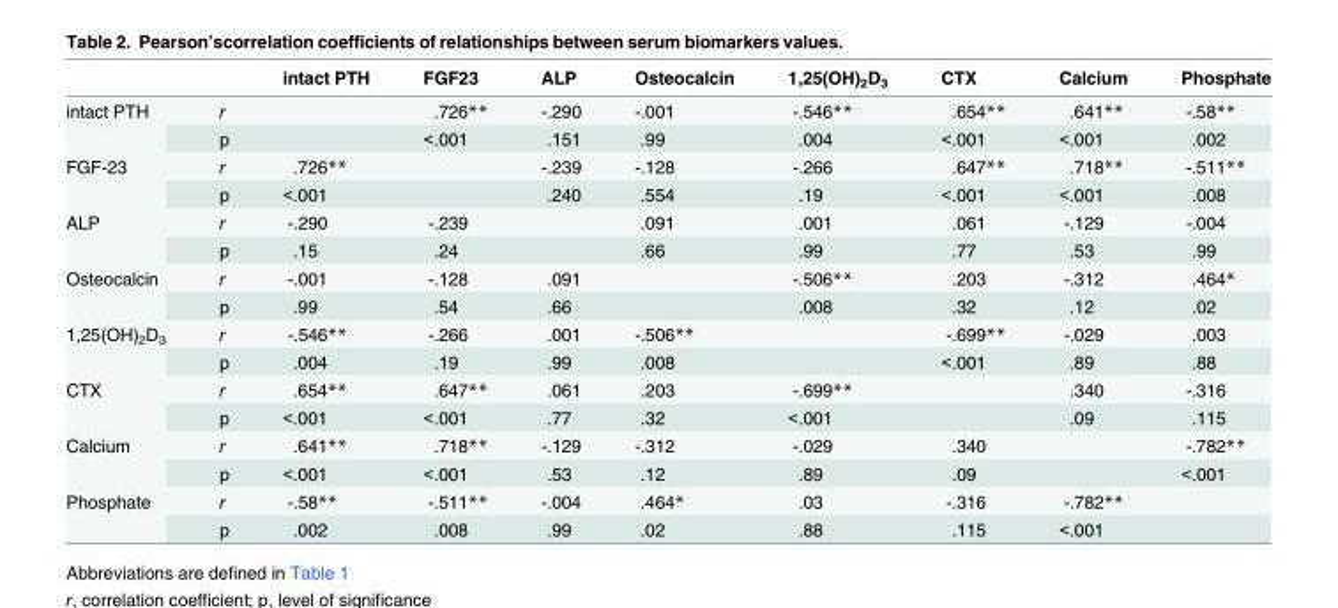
<table><thead><tr><td></td><td></td><td>intact PTH</td><td>FGF23</td><td>ALP</td><td>Osteocalcin</td><td>1,25(OH)<sub>2</sub>D<sub>3</sub></td><td>CTX</td><td>Calcium</td><td>Phosphate</td></tr></thead><tbody><tr><td rowspan="2">intact PTH</td><td>r</td><td></td><td>.726**</td><td>-.290</td><td>-.001</td><td>-.546**</td><td>.654**</td><td>.641**</td><td>-.58**</td></tr><tr><td>p</td><td></td><td>&lt;.001</td><td>.151</td><td>.99</td><td>.004</td><td>&lt;.001</td><td>&lt;.001</td><td>.002</td></tr><tr><td rowspan="2">FGF-23</td><td>r</td><td>.726**</td><td></td><td>-.239</td><td>-.128</td><td>-.266</td><td>.647**</td><td>.718**</td><td>-.511**</td></tr><tr><td>p</td><td>&lt;.001</td><td></td><td>.240</td><td>.554</td><td>.19</td><td>&lt;.001</td><td>&lt;.001</td><td>.008</td></tr><tr><td rowspan="2">ALP</td><td>r</td><td>-.290</td><td>-.239</td><td></td><td>.091</td><td>.001</td><td>.061</td><td>-.129</td><td>-.004</td></tr><tr><td>p</td><td>.15</td><td>.24</td><td></td><td>.66</td><td>.99</td><td>.77</td><td>.53</td><td>.99</td></tr><tr><td rowspan="2">Osteocalcin</td><td>r</td><td>-.001</td><td>-.128</td><td>.091</td><td></td><td>-.506**</td><td>.203</td><td>-.312</td><td>.464*</td></tr><tr><td>p</td><td>.99</td><td>.54</td><td>.66</td><td></td><td>.008</td><td>.32</td><td>.12</td><td>.02</td></tr><tr><td rowspan="2">1,25(OH)<sub>2</sub>D<sub>3</sub></td><td>r</td><td>-.546**</td><td>-.266</td><td>.001</td><td>-.506**</td><td></td><td>-.699**</td><td>-.029</td><td>.003</td></tr><tr><td>p</td><td>.004</td><td>.19</td><td>.99</td><td>.008</td><td></td><td>&lt;.001</td><td>.89</td><td>.88</td></tr><tr><td rowspan="2">CTX</td><td>r</td><td>.654**</td><td>.647**</td><td>.061</td><td>.203</td><td>-.699**</td><td></td><td>.340</td><td>-.316</td></tr><tr><td>p</td><td>&lt;.001</td><td>&lt;.001</td><td>.77</td><td>.32</td><td>&lt;.001</td><td></td><td>.09</td><td>.115</td></tr><tr><td rowspan="2">Calcium</td><td>r</td><td>.641**</td><td>.718**</td><td>-.129</td><td>-.312</td><td>-.029</td><td>.340</td><td></td><td>-.782**</td></tr><tr><td>p</td><td>&lt;.001</td><td>&lt;.001</td><td>.53</td><td>.12</td><td>.89</td><td>.09</td><td></td><td>&lt;.001</td></tr><tr><td rowspan="2">Phosphate</td><td>r</td><td>-.58**</td><td>-.511**</td><td>-.004</td><td>.464*</td><td>.03</td><td>-.316</td><td>-.782**</td><td></td></tr><tr><td>p</td><td>.002</td><td>.008</td><td>.99</td><td>.02</td><td>.88</td><td>.115</td><td>&lt;.001</td><td></td></tr></tbody></table>